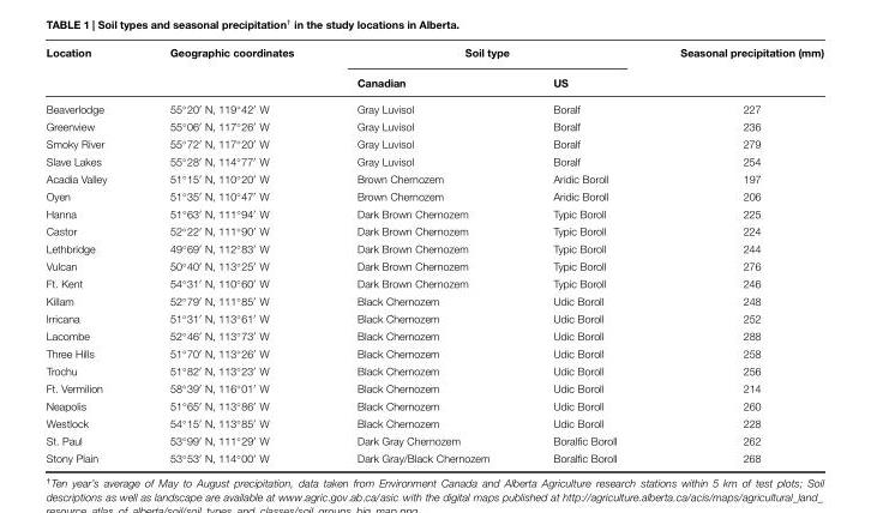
<table><thead><tr><td rowspan="2">Location</td><td rowspan="2">Geographic coordinates</td><td colspan="2">Soil type</td><td rowspan="2">Seasonal precipitation (mm)</td></tr><tr><td>Canadian</td><td>US</td></tr></thead><tbody><tr><td>Beaverlodge</td><td>55◦20′ N, 119◦42′ W</td><td>Gray Luvisol</td><td>Boralf</td><td>227</td></tr><tr><td>Greenview</td><td>55◦06′ N, 117◦26′ W</td><td>Gray Luvisol</td><td>Boralf</td><td>236</td></tr><tr><td>Smoky River</td><td>55◦72′ N, 117◦20′ W</td><td>Gray Luvisol</td><td>Boralf</td><td>279</td></tr><tr><td>Slave Lakes</td><td>55◦28′ N, 114◦77′ W</td><td>Gray Luvisol</td><td>Boralf</td><td>254</td></tr><tr><td>Acadia Valley</td><td>51◦15′ N, 110◦20′ W</td><td>Brown Chernozem</td><td>Aridic Boroll</td><td>197</td></tr><tr><td>Oyen</td><td>51◦35′ N, 110◦47′ W</td><td>Brown Chernozem</td><td>Aridic Boroll</td><td>206</td></tr><tr><td>Hanna</td><td>51◦63′ N, 111◦94′ W</td><td>Dark Brown Chernozem</td><td>Typic Boroll</td><td>225</td></tr><tr><td>Castor</td><td>52◦22′ N, 111◦90′ W</td><td>Dark Brown Chernozem</td><td>Typic Boroll</td><td>224</td></tr><tr><td>Lethbridge</td><td>49◦69′ N, 112◦83′ W</td><td>Dark Brown Chernozem</td><td>Typic Boroll</td><td>244</td></tr><tr><td>Vulcan</td><td>50◦40′ N, 113◦25′ W</td><td>Dark Brown Chernozem</td><td>Typic Boroll</td><td>276</td></tr><tr><td>Ft. Kent</td><td>54◦31′ N, 110◦60′ W</td><td>Dark Brown Chernozem</td><td>Typic Boroll</td><td>246</td></tr><tr><td>Killam</td><td>52◦79′ N, 111◦85′ W</td><td>Black Chernozem</td><td>Udic Boroll</td><td>248</td></tr><tr><td>Irricana</td><td>51◦31′ N, 113◦61′ W</td><td>Black Chernozem</td><td>Udic Boroll</td><td>252</td></tr><tr><td>Lacombe</td><td>52◦46′ N, 113◦73′ W</td><td>Black Chernozem</td><td>Udic Boroll</td><td>288</td></tr><tr><td>Three Hills</td><td>51◦70′ N, 113◦26′ W</td><td>Black Chernozem</td><td>Udic Boroll</td><td>258</td></tr><tr><td>Trochu</td><td>51◦82′ N, 113◦23′ W</td><td>Black Chernozem</td><td>Udic Boroll</td><td>256</td></tr><tr><td>Ft. Vermilion</td><td>58◦39′ N, 116◦01′ W</td><td>Black Chernozem</td><td>Udic Boroll</td><td>214</td></tr><tr><td>Neapolis</td><td>51◦65′ N, 113◦86′ W</td><td>Black Chernozem</td><td>Udic Boroll</td><td>260</td></tr><tr><td>Westlock</td><td>54◦15′ N, 113◦85′ W</td><td>Black Chernozem</td><td>Udic Boroll</td><td>228</td></tr><tr><td>St. Paul</td><td>53◦99′ N, 111◦29′ W</td><td>Dark Gray Chernozem</td><td>Boralfic Boroll</td><td>262</td></tr><tr><td>Stony Plain</td><td>53◦53′ N, 114◦00′ W</td><td>Dark Gray/Black Chernozem</td><td>Boralfic Boroll</td><td>268</td></tr></tbody></table>